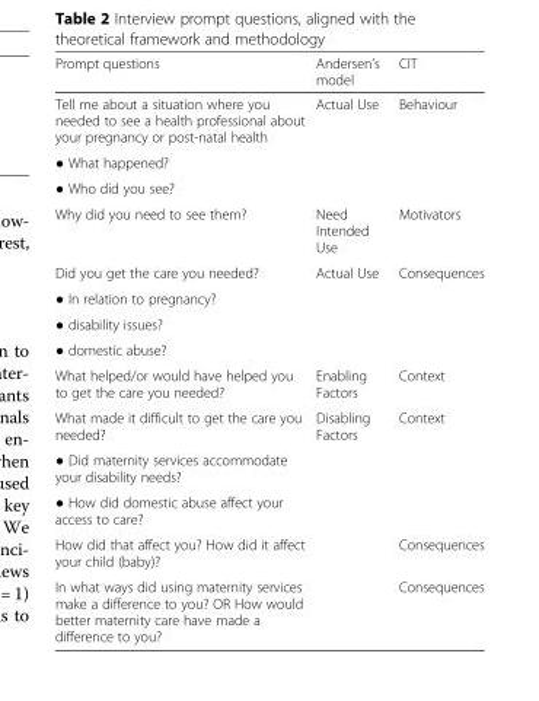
<table><thead><tr><td>Prompt questions</td><td>Andersen’s model</td><td>CIT</td></tr></thead><tbody><tr><td>Tell me about a situation where you needed to see a health professional about your pregnancy or post-natal health</td><td rowspan="3">Actual Use</td><td rowspan="3">Behaviour</td></tr><tr><td>● What happened?</td></tr><tr><td>● Who did you see?</td></tr><tr><td>Why did you need to see them?</td><td>Need Intended Use</td><td>Motivators</td></tr><tr><td>Did you get the care you needed?</td><td rowspan="4">Actual Use</td><td rowspan="4">Consequences</td></tr><tr><td>● In relation to pregnancy?</td></tr><tr><td>● disability issues?</td></tr><tr><td>● domestic abuse?</td></tr><tr><td>What helped/or would have helped you to get the care you needed?</td><td>Enabling Factors</td><td>Context</td></tr><tr><td>What made it difficult to get the care you needed?</td><td rowspan="3">Disabling Factors</td><td rowspan="3">Context</td></tr><tr><td>● Did maternity services accommodate your disability needs?</td></tr><tr><td>● How did domestic abuse affect your access to care?</td></tr><tr><td>How did that affect you? How did it affect your child (baby)?</td><td></td><td>Consequences</td></tr><tr><td>In what ways did using maternity services make a difference to you? OR How would better maternity care have made a difference to you?</td><td></td><td>Consequences</td></tr></tbody></table>